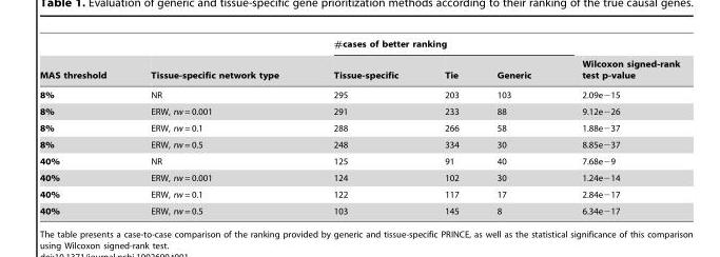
<table><thead><tr><td rowspan="2">MAS threshold</td><td rowspan="2">Tissue-specific network type</td><td colspan="3">#cases of better ranking</td><td rowspan="2">Wilcoxon signed-rank test p-value</td></tr><tr><td>Tissue-specific</td><td>Tie</td><td>Generic</td></tr></thead><tbody><tr><td>8%</td><td>NR</td><td>295</td><td>203</td><td>103</td><td>2.09e−15</td></tr><tr><td>8%</td><td>ERW, rw = 0.001</td><td>291</td><td>233</td><td>88</td><td>9.12e−26</td></tr><tr><td>8%</td><td>ERW, rw = 0.1</td><td>288</td><td>266</td><td>58</td><td>1.88e−37</td></tr><tr><td>8%</td><td>ERW, rw = 0.5</td><td>248</td><td>334</td><td>30</td><td>8.85e−37</td></tr><tr><td>40%</td><td>NR</td><td>125</td><td>91</td><td>40</td><td>7.68e−9</td></tr><tr><td>40%</td><td>ERW, rw = 0.001</td><td>124</td><td>102</td><td>30</td><td>1.24e−14</td></tr><tr><td>40%</td><td>ERW, rw = 0.1</td><td>122</td><td>117</td><td>17</td><td>2.84e−17</td></tr><tr><td>40%</td><td>ERW, rw = 0.5</td><td>103</td><td>145</td><td>8</td><td>6.34e−17</td></tr></tbody></table>